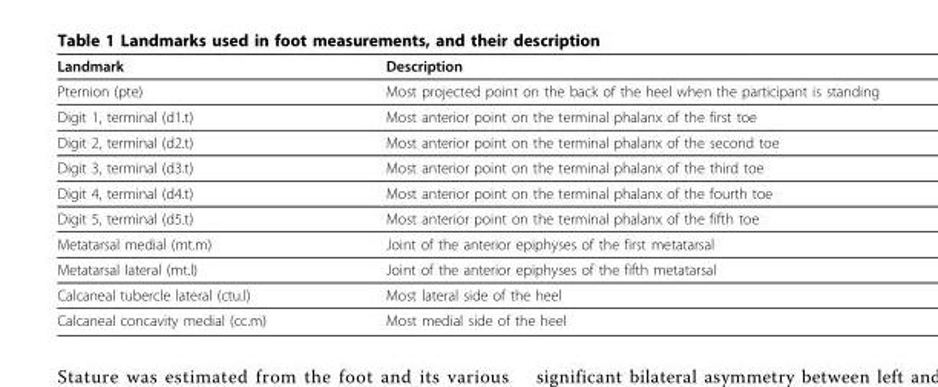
<table><thead><tr><td>Landmark</td><td>Description</td></tr></thead><tbody><tr><td>Pternion (pte)</td><td>Most projected point on the back of the heel when the participant is standing</td></tr><tr><td>Digit 1, terminal (d1.t)</td><td>Most anterior point on the terminal phalanx of the first toe</td></tr><tr><td>Digit 2, terminal (d2.t)</td><td>Most anterior point on the terminal phalanx of the second toe</td></tr><tr><td>Digit 3, terminal (d3.t)</td><td>Most anterior point on the terminal phalanx of the third toe</td></tr><tr><td>Digit 4, terminal (d4.t)</td><td>Most anterior point on the terminal phalanx of the fourth toe</td></tr><tr><td>Digit 5, terminal (d5.t)</td><td>Most anterior point on the terminal phalanx of the fifth toe</td></tr><tr><td>Metatarsal medial (mt.m)</td><td>Joint of the anterior epiphyses of the first metatarsal</td></tr><tr><td>Metatarsal lateral (mt.l)</td><td>Joint of the anterior epiphyses of the fifth metatarsal</td></tr><tr><td>Calcaneal tubercle lateral (ctu.l)</td><td>Most lateral side of the heel</td></tr><tr><td>Calcaneal concavity medial (cc.m)</td><td>Most medial side of the heel</td></tr></tbody></table>